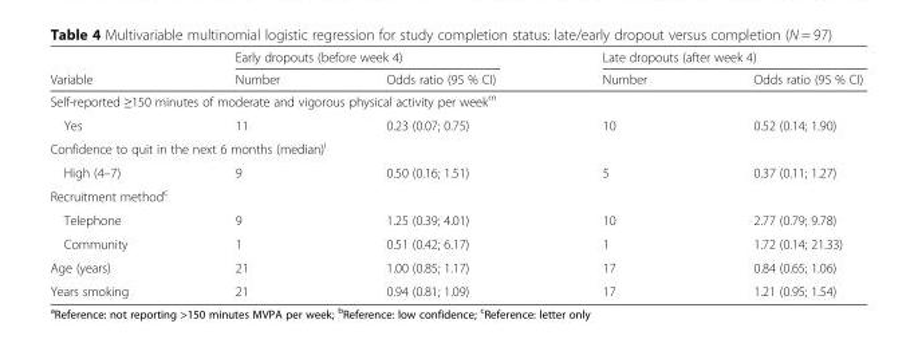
<table><thead><tr><td rowspan="2">Variable</td><td colspan="2">Early dropouts (before week 4)</td><td colspan="2">Late dropouts (after week 4)</td></tr><tr><td>Number</td><td>Odds ratio (95 % CI)</td><td>Number</td><td>Odds ratio (95 % CI)</td></tr></thead><tbody><tr><td colspan="5">Self-reported ≥150 minutes of moderate and vigorous physical activity per week<sup>m</sup></td></tr><tr><td>Yes</td><td>11</td><td>0.23 (0.07; 0.75)</td><td>10</td><td>0.52 (0.14; 1.90)</td></tr><tr><td colspan="5">Confidence to quit in the next 6 months (median)<sup>i</sup></td></tr><tr><td>High (4–7)</td><td>9</td><td>0.50 (0.16; 1.51)</td><td>5</td><td>0.37 (0.11; 1.27)</td></tr><tr><td colspan="5">Recruitment method<sup>c</sup></td></tr><tr><td>Telephone</td><td>9</td><td>1.25 (0.39; 4.01)</td><td>10</td><td>2.77 (0.79; 9.78)</td></tr><tr><td>Community</td><td>1</td><td>0.51 (0.42; 6.17)</td><td>1</td><td>1.72 (0.14; 21.33)</td></tr><tr><td>Age (years)</td><td>21</td><td>1.00 (0.85; 1.17)</td><td>17</td><td>0.84 (0.65; 1.06)</td></tr><tr><td>Years smoking</td><td>21</td><td>0.94 (0.81; 1.09)</td><td>17</td><td>1.21 (0.95; 1.54)</td></tr></tbody></table>